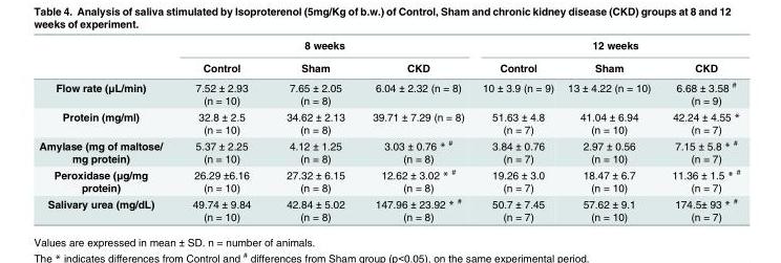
<table><thead><tr><td rowspan="2"></td><td colspan="3">8 weeks</td><td colspan="3">12 weeks</td></tr><tr><td>Control</td><td>Sham</td><td>CKD</td><td>Control</td><td>Sham</td><td>CKD</td></tr></thead><tbody><tr><td>Flow rate (μL/min)</td><td>7.52 ± 2.93 (n = 10)</td><td>7.65 ± 2.05 (n = 8)</td><td>6.04 ± 2.32 (n = 8)</td><td>10 ± 3.9 (n = 9)</td><td>13 ± 4.22 (n = 10)</td><td>6.68 ± 3.58 <sup>#</sup> (n = 9)</td></tr><tr><td>Protein (mg/ml)</td><td>32.8 ± 2.5 (n = 10)</td><td>34.62 ± 2.13 (n = 8)</td><td>39.71 ± 7.29 (n = 8)</td><td>51.63 ± 4.8 (n = 7)</td><td>41.04 ± 6.94 (n = 10)</td><td>42.24 ± 4.55 * (n = 7)</td></tr><tr><td>Amylase (mg of maltose/ mg protein)</td><td>5.37 ± 2.25 (n = 10)</td><td>4.12 ± 1.25 (n = 8)</td><td>3.03 ± 0.76 * <sup>#</sup> (n = 8)</td><td>3.84 ± 0.76 (n = 7)</td><td>2.97 ± 0.56 (n = 10)</td><td>7.15 ± 5.8 * <sup>#</sup> (n = 7)</td></tr><tr><td>Peroxidase (μg/mg protein)</td><td>26.29 ±6.16 (n = 10)</td><td>27.32 ± 6.15 (n = 8)</td><td>12.62 ± 3.02 * <sup>#</sup> (n = 8)</td><td>19.26 ± 3.0 (n = 7)</td><td>18.47 ± 6.7 (n = 10)</td><td>11.36 ± 1.5 * <sup>#</sup> (n = 7)</td></tr><tr><td>Salivary urea (mg/dL)</td><td>49.74 ± 9.84 (n = 10)</td><td>42.84 ± 5.02 (n = 8)</td><td>147.96 ± 23.92 * <sup>#</sup> (n = 8)</td><td>50.7 ± 7.45 (n = 7)</td><td>57.62 ± 9.1 (n = 10)</td><td>174.5± 93 * <sup>#</sup> (n = 7)</td></tr></tbody></table>